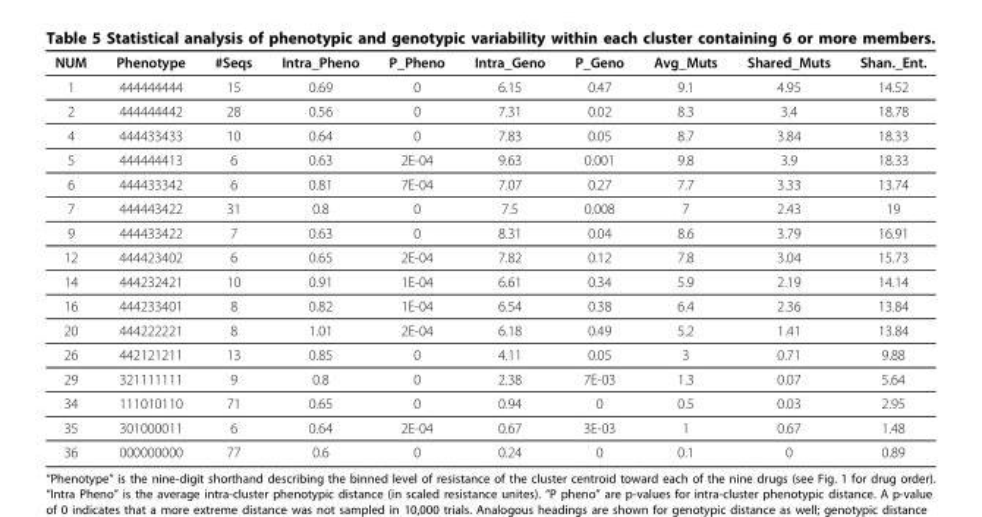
<table><thead><tr><td>NUM</td><td>Phenotype</td><td>#Seqs</td><td>Intra_Pheno</td><td>P_Pheno</td><td>Intra_Geno</td><td>P_Geno</td><td>Avg_Muts</td><td>Shared_Muts</td><td>Shan._Ent.</td></tr></thead><tbody><tr><td>1</td><td>444444444</td><td>15</td><td>0.69</td><td>0</td><td>6.15</td><td>0.47</td><td>9.1</td><td>4.95</td><td>14.52</td></tr><tr><td>2</td><td>444444442</td><td>28</td><td>0.56</td><td>0</td><td>7.31</td><td>0.02</td><td>8.3</td><td>3.4</td><td>18.78</td></tr><tr><td>4</td><td>444433433</td><td>10</td><td>0.64</td><td>0</td><td>7.83</td><td>0.05</td><td>8.7</td><td>3.84</td><td>18.33</td></tr><tr><td>5</td><td>444444413</td><td>6</td><td>0.63</td><td>2E-04</td><td>9.63</td><td>0.001</td><td>9.8</td><td>3.9</td><td>18.33</td></tr><tr><td>6</td><td>444433342</td><td>6</td><td>0.81</td><td>7E-04</td><td>7.07</td><td>0.27</td><td>7.7</td><td>3.33</td><td>13.74</td></tr><tr><td>7</td><td>444443422</td><td>31</td><td>0.8</td><td>0</td><td>7.5</td><td>0.008</td><td>7</td><td>2.43</td><td>19</td></tr><tr><td>9</td><td>444433422</td><td>7</td><td>0.63</td><td>0</td><td>8.31</td><td>0.04</td><td>8.6</td><td>3.79</td><td>16.91</td></tr><tr><td>12</td><td>444423402</td><td>6</td><td>0.65</td><td>2E-04</td><td>7.82</td><td>0.12</td><td>7.8</td><td>3.04</td><td>15.73</td></tr><tr><td>14</td><td>444232421</td><td>10</td><td>0.91</td><td>1E-04</td><td>6.61</td><td>0.34</td><td>5.9</td><td>2.19</td><td>14.14</td></tr><tr><td>16</td><td>444233401</td><td>8</td><td>0.82</td><td>1E-04</td><td>6.54</td><td>0.38</td><td>6.4</td><td>2.36</td><td>13.84</td></tr><tr><td>20</td><td>444222221</td><td>8</td><td>1.01</td><td>2E-04</td><td>6.18</td><td>0.49</td><td>5.2</td><td>1.41</td><td>13.84</td></tr><tr><td>26</td><td>442121211</td><td>13</td><td>0.85</td><td>0</td><td>4.11</td><td>0.05</td><td>3</td><td>0.71</td><td>9.88</td></tr><tr><td>29</td><td>321111111</td><td>9</td><td>0.8</td><td>0</td><td>2.38</td><td>7E-03</td><td>1.3</td><td>0.07</td><td>5.64</td></tr><tr><td>34</td><td>111010110</td><td>71</td><td>0.65</td><td>0</td><td>0.94</td><td>0</td><td>0.5</td><td>0.03</td><td>2.95</td></tr><tr><td>35</td><td>301000011</td><td>6</td><td>0.64</td><td>2E-04</td><td>0.67</td><td>3E-03</td><td>1</td><td>0.67</td><td>1.48</td></tr><tr><td>36</td><td>000000000</td><td>77</td><td>0.6</td><td>0</td><td>0.24</td><td>0</td><td>0.1</td><td>0</td><td>0.89</td></tr></tbody></table>